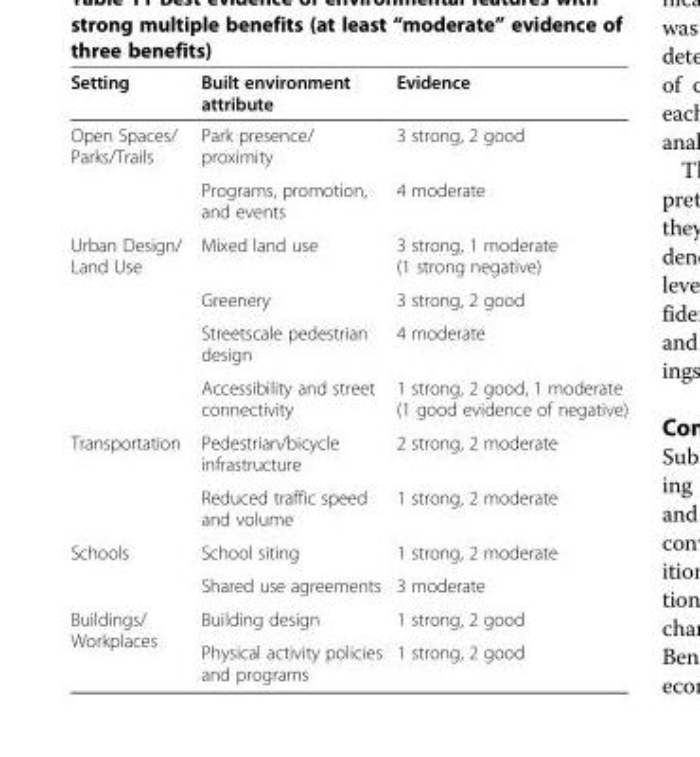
<table><thead><tr><td>Setting</td><td>Built environment attribute</td><td>Evidence</td></tr></thead><tbody><tr><td rowspan="2">Open Spaces/ Parks/Trails</td><td>Park presence/ proximity</td><td>3 strong, 2 good</td></tr><tr><td>Programs, promotion, and events</td><td>4 moderate</td></tr><tr><td rowspan="4">Urban Design/ Land Use</td><td>Mixed land use</td><td>3 strong, 1 moderate (1 strong negative)</td></tr><tr><td>Greenery</td><td>3 strong, 2 good</td></tr><tr><td>Streetscale pedestrian design</td><td>4 moderate</td></tr><tr><td>Accessibility and street connectivity</td><td>1 strong, 2 good, 1 moderate (1 good evidence of negative)</td></tr><tr><td rowspan="2">Transportation</td><td>Pedestrian/bicycle infrastructure</td><td>2 strong, 2 moderate</td></tr><tr><td>Reduced traffic speed and volume</td><td>1 strong, 2 moderate</td></tr><tr><td rowspan="2">Schools</td><td>School siting</td><td>1 strong, 2 moderate</td></tr><tr><td>Shared use agreements</td><td>3 moderate</td></tr><tr><td rowspan="2">Buildings/ Workplaces</td><td>Building design</td><td>1 strong, 2 good</td></tr><tr><td>Physical activity policies and programs</td><td>1 strong, 2 good</td></tr></tbody></table>